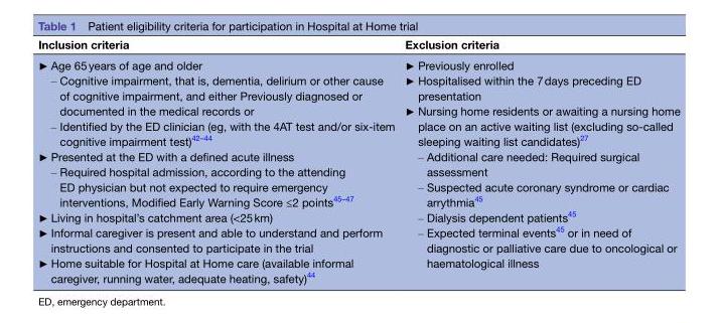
<table><thead><tr><td>Inclusion criteria</td><td>Exclusion criteria</td></tr></thead><tbody><tr><td>► Age 65 years of age and older – Cognitive impairment, that is, dementia, delirium or other cause of cognitive impairment, and either Previously diagnosed or documented in the medical records or – Identified by the ED clinician (eg, with the 4AT test and/or six-item cognitive impairment test)42–44 ► Presented at the ED with a defined acute illness – Required hospital admission, according to the attending ED physician but not expected to require emergency interventions, Modified Early Warning Score ≤2 points45–47 ► Living in hospital’s catchment area (&lt;25 km) ► Informal caregiver is present and able to understand and perform instructions and consented to participate in the trial ► Home suitable for Hospital at Home care (available informal caregiver, running water, adequate heating, safety)44</td><td>► Previously enrolled ► Hospitalised within the 7 days preceding ED presentation ► Nursing home residents or awaiting a nursing home place on an active waiting list (excluding so-called sleeping waiting list candidates)27 – Additional care needed: Required surgical assessment – Suspected acute coronary syndrome or cardiac arrythmia45 – Dialysis dependent patients45 – Expected terminal events45 or in need of diagnostic or palliative care due to oncological or haematological illness</td></tr></tbody></table>